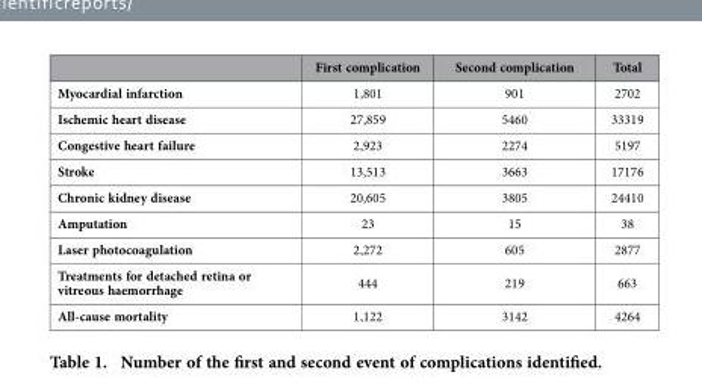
<table><thead><tr><td></td><td>First complication</td><td>Second complication</td><td>Total</td></tr></thead><tbody><tr><td>Myocardial infarction</td><td>1,801</td><td>901</td><td>2702</td></tr><tr><td>Ischemic heart disease</td><td>27,859</td><td>5460</td><td>33319</td></tr><tr><td>Congestive heart failure</td><td>2,923</td><td>2274</td><td>5197</td></tr><tr><td>Stroke</td><td>13,513</td><td>3663</td><td>17176</td></tr><tr><td>Chronic kidney disease</td><td>20,605</td><td>3805</td><td>24410</td></tr><tr><td>Amputation</td><td>23</td><td>15</td><td>38</td></tr><tr><td>Laser photocoagulation</td><td>2,272</td><td>605</td><td>2877</td></tr><tr><td>Treatments for detached retina or vitreous haemorrhage</td><td>444</td><td>219</td><td>663</td></tr><tr><td>All-cause mortality</td><td>1,122</td><td>3142</td><td>4264</td></tr></tbody></table>